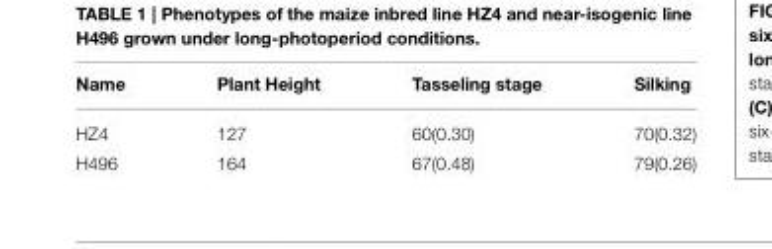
<table><thead><tr><td>Name</td><td>Plant Height</td><td>Tasseling stage</td><td>Silking</td></tr></thead><tbody><tr><td>HZ4</td><td>127</td><td>60(0.30)</td><td>70(0.32)</td></tr><tr><td>H496</td><td>164</td><td>67(0.48)</td><td>79(0.26)</td></tr></tbody></table>